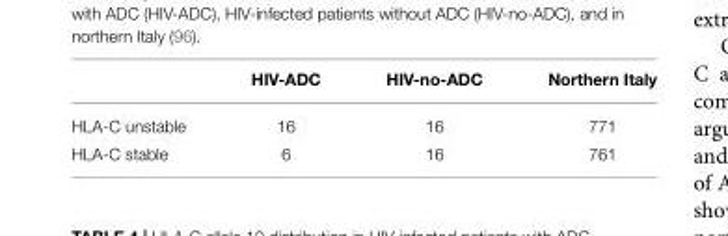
<table><thead><tr><td></td><td>HIV-ADC</td><td>HIV-no-ADC</td><td>Northern Italy</td></tr></thead><tbody><tr><td>HLA-C unstable</td><td>16</td><td>16</td><td>771</td></tr><tr><td>HLA-C stable</td><td>6</td><td>16</td><td>761</td></tr></tbody></table>